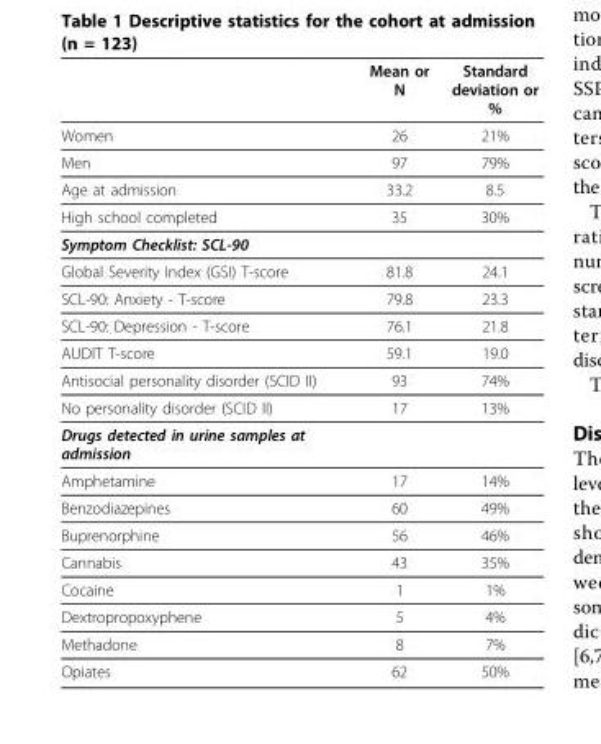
<table><thead><tr><td></td><td>Mean or N</td><td>Standard deviation or %</td></tr></thead><tbody><tr><td>Women</td><td>26</td><td>21%</td></tr><tr><td>Men</td><td>97</td><td>79%</td></tr><tr><td>Age at admission</td><td>33.2</td><td>8.5</td></tr><tr><td>High school completed</td><td>35</td><td>30%</td></tr><tr><td colspan="3">Symptom Checklist: SCL-90</td></tr><tr><td>Global Severity Index (GSI) T-score</td><td>81.8</td><td>24.1</td></tr><tr><td>SCL-90: Anxiety - T-score</td><td>79.8</td><td>23.3</td></tr><tr><td>SCL-90: Depression - T-score</td><td>76.1</td><td>21.8</td></tr><tr><td>AUDIT T-score</td><td>59.1</td><td>19.0</td></tr><tr><td>Antisocial personality disorder (SCID II)</td><td>93</td><td>74%</td></tr><tr><td>No personality disorder (SCID II)</td><td>17</td><td>13%</td></tr><tr><td colspan="3">Drugs detected in urine samples at admission</td></tr><tr><td>Amphetamine</td><td>17</td><td>14%</td></tr><tr><td>Benzodiazepines</td><td>60</td><td>49%</td></tr><tr><td>Buprenorphine</td><td>56</td><td>46%</td></tr><tr><td>Cannabis</td><td>43</td><td>35%</td></tr><tr><td>Cocaine</td><td>1</td><td>1%</td></tr><tr><td>Dextropropoxyphene</td><td>5</td><td>4%</td></tr><tr><td>Methadone</td><td>8</td><td>7%</td></tr><tr><td>Opiates</td><td>62</td><td>50%</td></tr></tbody></table>